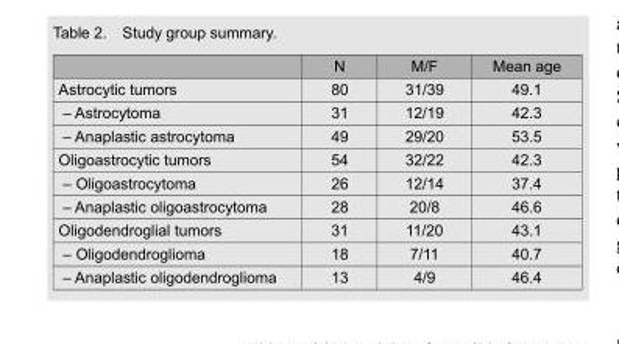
<table><thead><tr><td></td><td>N</td><td>M/F</td><td>Mean age</td></tr></thead><tbody><tr><td>Astrocytic tumors</td><td>80</td><td>31/39</td><td>49.1</td></tr><tr><td>– Astrocytoma</td><td>31</td><td>12/19</td><td>42.3</td></tr><tr><td>– Anaplastic astrocytoma</td><td>49</td><td>29/20</td><td>53.5</td></tr><tr><td>Oligoastrocytic tumors</td><td>54</td><td>32/22</td><td>42.3</td></tr><tr><td>– Oligoastrocytoma</td><td>26</td><td>12/14</td><td>37.4</td></tr><tr><td>– Anaplastic oligoastrocytoma</td><td>28</td><td>20/8</td><td>46.6</td></tr><tr><td>Oligodendroglial tumors</td><td>31</td><td>11/20</td><td>43.1</td></tr><tr><td>– Oligodendroglioma</td><td>18</td><td>7/11</td><td>40.7</td></tr><tr><td>– Anaplastic oligodendroglioma</td><td>13</td><td>4/9</td><td>46.4</td></tr></tbody></table>